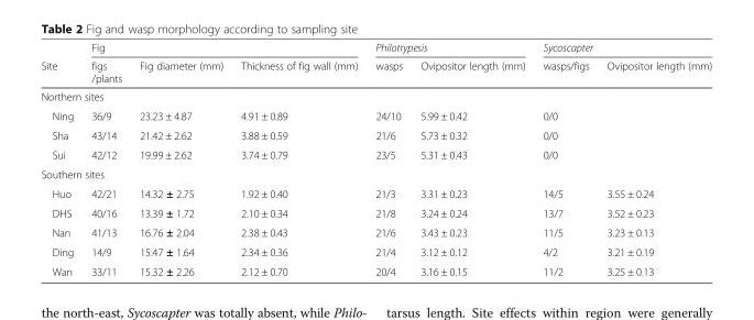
<table><thead><tr><td rowspan="2">Site</td><td colspan="3">Fig</td><td colspan="2">Philotrypesis</td><td colspan="2">Sycoscapter</td></tr><tr><td>figs /plants</td><td>Fig diameter (mm)</td><td>Thickness of fig wall (mm)</td><td>wasps</td><td>Ovipositor length (mm)</td><td>wasps/figs</td><td>Ovipositor length (mm)</td></tr></thead><tbody><tr><td colspan="8">Northern sites</td></tr><tr><td>Ning</td><td>36/9</td><td>23.23 ± 4.87</td><td>4.91 ± 0.89</td><td>24/10</td><td>5.99 ± 0.42</td><td>0/0</td><td></td></tr><tr><td>Sha</td><td>43/14</td><td>21.42 ± 2.62</td><td>3.88 ± 0.59</td><td>21/6</td><td>5.73 ± 0.32</td><td>0/0</td><td></td></tr><tr><td>Sui</td><td>42/12</td><td>19.99 ± 2.62</td><td>3.74 ± 0.79</td><td>23/5</td><td>5.31 ± 0.43</td><td>0/0</td><td></td></tr><tr><td colspan="8">Southern sites</td></tr><tr><td>Huo</td><td>42/21</td><td>14.32 ± 2.75</td><td>1.92 ± 0.40</td><td>21/3</td><td>3.31 ± 0.23</td><td>14/5</td><td>3.55 ± 0.24</td></tr><tr><td>DHS</td><td>40/16</td><td>13.39 ± 1.72</td><td>2.10 ± 0.34</td><td>21/8</td><td>3.24 ± 0.24</td><td>13/7</td><td>3.52 ± 0.23</td></tr><tr><td>Nan</td><td>41/13</td><td>16.76 ± 2.04</td><td>2.38 ± 0.43</td><td>21/6</td><td>3.43 ± 0.23</td><td>11/5</td><td>3.23 ± 0.13</td></tr><tr><td>Ding</td><td>14/9</td><td>15.47 ± 1.64</td><td>2.34 ± 0.36</td><td>21/4</td><td>3.12 ± 0.12</td><td>4/2</td><td>3.21 ± 0.19</td></tr><tr><td>Wan</td><td>33/11</td><td>15.32 ± 2.26</td><td>2.12 ± 0.70</td><td>20/4</td><td>3.16 ± 0.15</td><td>11/2</td><td>3.25 ± 0.13</td></tr></tbody></table>